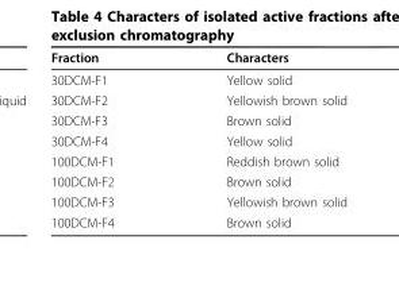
<table><thead><tr><td>Fraction</td><td>Characters</td></tr></thead><tbody><tr><td>30DCM-F1</td><td>Yellow solid</td></tr><tr><td>30DCM-F2</td><td>Yellowish brown solid</td></tr><tr><td>30DCM-F3</td><td>Brown solid</td></tr><tr><td>30DCM-F4</td><td>Yellow solid</td></tr><tr><td>100DCM-F1</td><td>Reddish brown solid</td></tr><tr><td>100DCM-F2</td><td>Brown solid</td></tr><tr><td>100DCM-F3</td><td>Yellowish brown solid</td></tr><tr><td>100DCM-F4</td><td>Brown solid</td></tr></tbody></table>